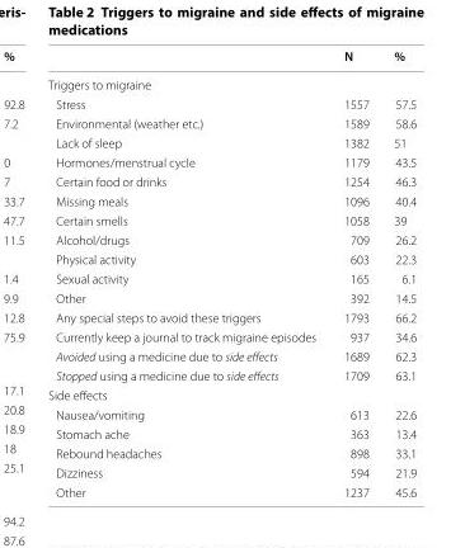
<table><thead><tr><td></td><td>N</td><td>%</td></tr></thead><tbody><tr><td colspan="3">Triggers to migraine</td></tr><tr><td>Stress</td><td>1557</td><td>57.5</td></tr><tr><td>Environmental (weather etc.)</td><td>1589</td><td>58.6</td></tr><tr><td>Lack of sleep</td><td>1382</td><td>51</td></tr><tr><td>Hormones/menstrual cycle</td><td>1179</td><td>43.5</td></tr><tr><td>Certain food or drinks</td><td>1254</td><td>46.3</td></tr><tr><td>Missing meals</td><td>1096</td><td>40.4</td></tr><tr><td>Certain smells</td><td>1058</td><td>39</td></tr><tr><td>Alcohol/drugs</td><td>709</td><td>26.2</td></tr><tr><td>Physical activity</td><td>603</td><td>22.3</td></tr><tr><td>Sexual activity</td><td>165</td><td>6.1</td></tr><tr><td>Other</td><td>392</td><td>14.5</td></tr><tr><td>Any special steps to avoid these triggers</td><td>1793</td><td>66.2</td></tr><tr><td>Currently keep a journal to track migraine episodes</td><td>937</td><td>34.6</td></tr><tr><td>Avoided using a medicine due to side effects</td><td>1689</td><td>62.3</td></tr><tr><td>Stopped using a medicine due to side effects</td><td>1709</td><td>63.1</td></tr><tr><td colspan="3">Side effects</td></tr><tr><td>Nausea/vomiting</td><td>613</td><td>22.6</td></tr><tr><td>Stomach ache</td><td>363</td><td>13.4</td></tr><tr><td>Rebound headaches</td><td>898</td><td>33.1</td></tr><tr><td>Dizziness</td><td>594</td><td>21.9</td></tr><tr><td>Other</td><td>1237</td><td>45.6</td></tr></tbody></table>